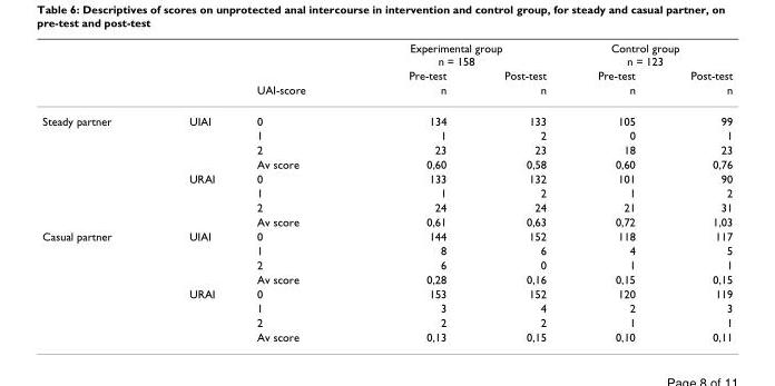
<table><thead><tr><td rowspan="3"></td><td rowspan="3"></td><td rowspan="3">UAI-score</td><td colspan="2">Experimental group n = 158</td><td colspan="2">Control group n = 123</td></tr><tr><td rowspan="2">Pre-test n</td><td rowspan="2">Post-test n</td><td rowspan="2">Pre-test n</td><td rowspan="2">Post-test n</td></tr><tr></tr></thead><tbody><tr><td rowspan="8">Steady partner</td><td>UIAI</td><td>0</td><td>134</td><td>133</td><td>105</td><td>99</td></tr><tr><td></td><td>1</td><td>1</td><td>2</td><td>0</td><td>1</td></tr><tr><td></td><td>2</td><td>23</td><td>23</td><td>18</td><td>23</td></tr><tr><td></td><td>Av score</td><td>0,60</td><td>0,58</td><td>0,60</td><td>0,76</td></tr><tr><td>URAI</td><td>0</td><td>133</td><td>132</td><td>101</td><td>90</td></tr><tr><td></td><td>1</td><td>1</td><td>2</td><td>1</td><td>2</td></tr><tr><td></td><td>2</td><td>24</td><td>24</td><td>21</td><td>31</td></tr><tr><td></td><td>Av score</td><td>0,61</td><td>0,63</td><td>0,72</td><td>1,03</td></tr><tr><td rowspan="8">Casual partner</td><td>UIAI</td><td>0</td><td>144</td><td>152</td><td>118</td><td>117</td></tr><tr><td></td><td>1</td><td>8</td><td>6</td><td>4</td><td>5</td></tr><tr><td></td><td>2</td><td>6</td><td>0</td><td>1</td><td>1</td></tr><tr><td></td><td>Av score</td><td>0,28</td><td>0,16</td><td>0,15</td><td>0,15</td></tr><tr><td>URAI</td><td>0</td><td>153</td><td>152</td><td>120</td><td>119</td></tr><tr><td></td><td>1</td><td>3</td><td>4</td><td>2</td><td>3</td></tr><tr><td></td><td>2</td><td>2</td><td>2</td><td>1</td><td>1</td></tr><tr><td></td><td>Av score</td><td>0,13</td><td>0,15</td><td>0,10</td><td>0,11</td></tr></tbody></table>